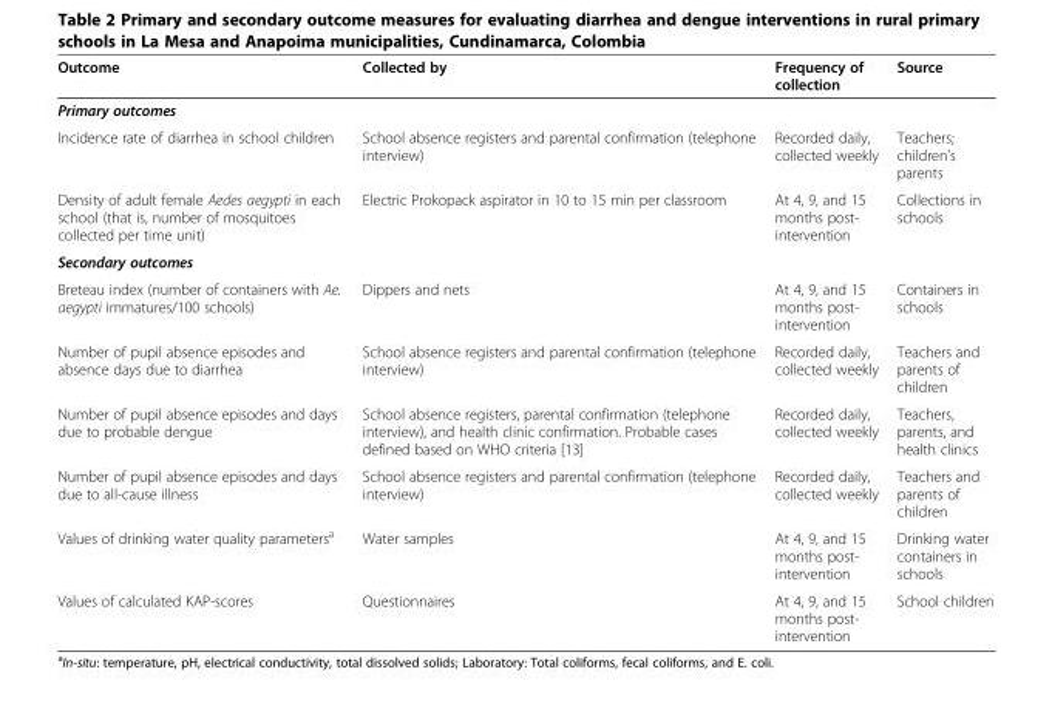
<table><thead><tr><td>Outcome</td><td>Collected by</td><td>Frequency of collection</td><td>Source</td></tr></thead><tbody><tr><td colspan="4">Primary outcomes</td></tr><tr><td>Incidence rate of diarrhea in school children</td><td>School absence registers and parental confirmation (telephone interview)</td><td>Recorded daily, collected weekly</td><td>Teachers; children’s parents</td></tr><tr><td>Density of adult female Aedes aegypti in each school (that is, number of mosquitoes collected per time unit)</td><td>Electric Prokopack aspirator in 10 to 15 min per classroom</td><td>At 4, 9, and 15 months post- intervention</td><td>Collections in schools</td></tr><tr><td colspan="4">Secondary outcomes</td></tr><tr><td>Breteau index (number of containers with Ae. aegypti immatures/100 schools)</td><td>Dippers and nets</td><td>At 4, 9, and 15 months post- intervention</td><td>Containers in schools</td></tr><tr><td>Number of pupil absence episodes and absence days due to diarrhea</td><td>School absence registers and parental confirmation (telephone interview)</td><td>Recorded daily, collected weekly</td><td>Teachers and parents of children</td></tr><tr><td>Number of pupil absence episodes and days due to probable dengue</td><td>School absence registers, parental confirmation (telephone interview), and health clinic confirmation. Probable cases defined based on WHO criteria [13]</td><td>Recorded daily, collected weekly</td><td>Teachers, parents, and health clinics</td></tr><tr><td>Number of pupil absence episodes and days due to all-cause illness</td><td>School absence registers and parental confirmation (telephone interview)</td><td>Recorded daily, collected weekly</td><td>Teachers and parents of children</td></tr><tr><td>Values of drinking water quality parameters<sup>a</sup></td><td>Water samples</td><td>At 4, 9, and 15 months post- intervention</td><td>Drinking water containers in schools</td></tr><tr><td>Values of calculated KAP-scores</td><td>Questionnaires</td><td>At 4, 9, and 15 months post- intervention</td><td>School children</td></tr></tbody></table>